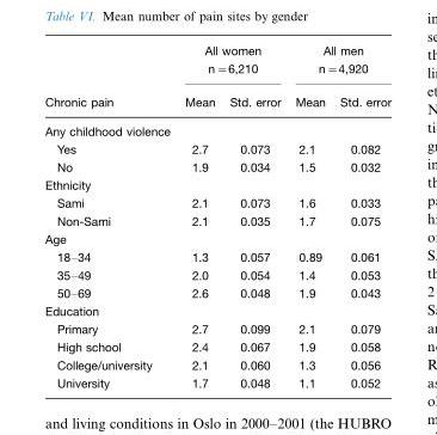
<table><thead><tr><td rowspan="2">Chronic pain</td><td colspan="2">All women n=6,210</td><td colspan="2">All men n=4,920</td></tr><tr><td>Mean</td><td>Std. error</td><td>Mean</td><td>Std. error</td></tr></thead><tbody><tr><td colspan="5">Any childhood violence</td></tr><tr><td>Yes</td><td>2.7</td><td>0.073</td><td>2.1</td><td>0.082</td></tr><tr><td>No</td><td>1.9</td><td>0.034</td><td>1.5</td><td>0.032</td></tr><tr><td colspan="5">Ethnicity</td></tr><tr><td>Sami</td><td>2.1</td><td>0.073</td><td>1.6</td><td>0.033</td></tr><tr><td>Non-Sami</td><td>2.1</td><td>0.035</td><td>1.7</td><td>0.075</td></tr><tr><td colspan="5">Age</td></tr><tr><td>18–34</td><td>1.3</td><td>0.057</td><td>0.89</td><td>0.061</td></tr><tr><td>35–49</td><td>2.0</td><td>0.054</td><td>1.4</td><td>0.053</td></tr><tr><td>50–69</td><td>2.6</td><td>0.048</td><td>1.9</td><td>0.043</td></tr><tr><td colspan="5">Education</td></tr><tr><td>Primary</td><td>2.7</td><td>0.099</td><td>2.1</td><td>0.079</td></tr><tr><td>High school</td><td>2.4</td><td>0.067</td><td>1.9</td><td>0.058</td></tr><tr><td>College/university</td><td>2.1</td><td>0.060</td><td>1.3</td><td>0.056</td></tr><tr><td>University</td><td>1.7</td><td>0.048</td><td>1.1</td><td>0.052</td></tr></tbody></table>